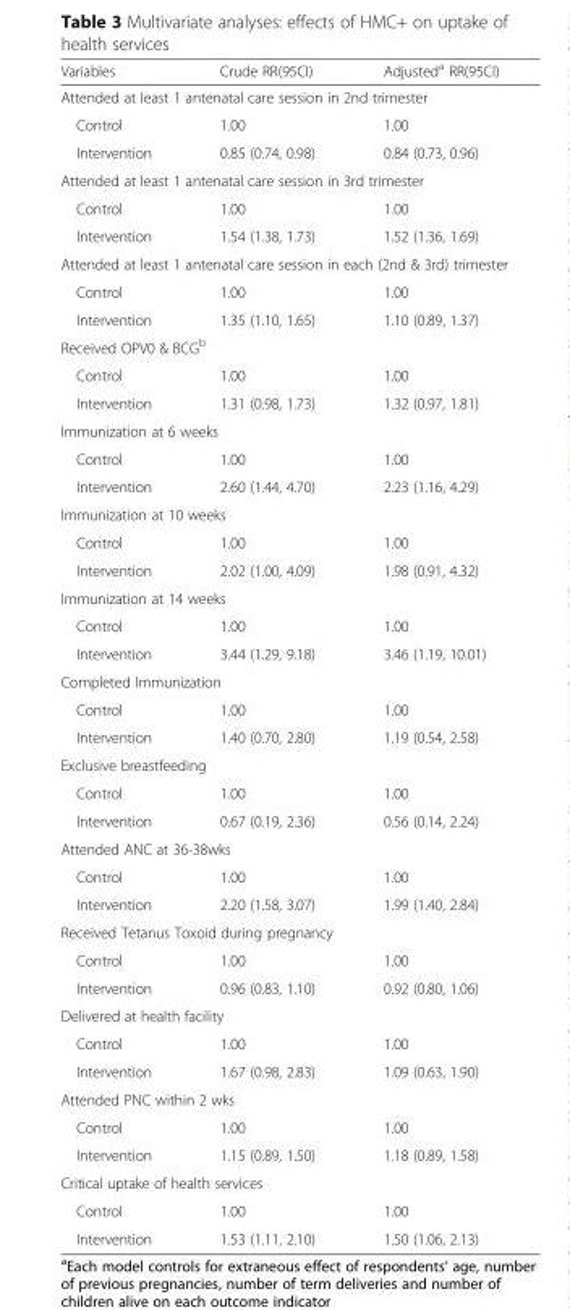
<table><thead><tr><td>Variables</td><td>Crude RR(95CI)</td><td>Adjusted<sup>a</sup> RR(95CI)</td></tr></thead><tbody><tr><td colspan="3">Attended at least 1 antenatal care session in 2nd trimester</td></tr><tr><td>Control</td><td>1.00</td><td>1.00</td></tr><tr><td>Intervention</td><td>0.85 (0.74, 0.98)</td><td>0.84 (0.73, 0.96)</td></tr><tr><td colspan="3">Attended at least 1 antenatal care session in 3rd trimester</td></tr><tr><td>Control</td><td>1.00</td><td>1.00</td></tr><tr><td>Intervention</td><td>1.54 (1.38, 1.73)</td><td>1.52 (1.36, 1.69)</td></tr><tr><td colspan="3">Attended at least 1 antenatal care session in each (2nd &amp; 3rd) trimester</td></tr><tr><td>Control</td><td>1.00</td><td>1.00</td></tr><tr><td>Intervention</td><td>1.35 (1.10, 1.65)</td><td>1.10 (0.89, 1.37)</td></tr><tr><td colspan="3">Received OPV0 &amp; BCG<sup>b</sup></td></tr><tr><td>Control</td><td>1.00</td><td>1.00</td></tr><tr><td>Intervention</td><td>1.31 (0.98, 1.73)</td><td>1.32 (0.97, 1.81)</td></tr><tr><td colspan="3">Immunization at 6 weeks</td></tr><tr><td>Control</td><td>1.00</td><td>1.00</td></tr><tr><td>Intervention</td><td>2.60 (1.44, 4.70)</td><td>2.23 (1.16, 4.29)</td></tr><tr><td colspan="3">Immunization at 10 weeks</td></tr><tr><td>Control</td><td>1.00</td><td>1.00</td></tr><tr><td>Intervention</td><td>2.02 (1.00, 4.09)</td><td>1.98 (0.91, 4.32)</td></tr><tr><td colspan="3">Immunization at 14 weeks</td></tr><tr><td>Control</td><td>1.00</td><td>1.00</td></tr><tr><td>Intervention</td><td>3.44 (1.29, 9.18)</td><td>3.46 (1.19, 10.01)</td></tr><tr><td colspan="3">Completed Immunization</td></tr><tr><td>Control</td><td>1.00</td><td>1.00</td></tr><tr><td>Intervention</td><td>1.40 (0.70, 2.80)</td><td>1.19 (0.54, 2.58)</td></tr><tr><td colspan="3">Exclusive breastfeeding</td></tr><tr><td>Control</td><td>1.00</td><td>1.00</td></tr><tr><td>Intervention</td><td>0.67 (0.19, 2.36)</td><td>0.56 (0.14, 2.24)</td></tr><tr><td colspan="3">Attended ANC at 36-38wks</td></tr><tr><td>Control</td><td>1.00</td><td>1.00</td></tr><tr><td>Intervention</td><td>2.20 (1.58, 3.07)</td><td>1.99 (1.40, 2.84)</td></tr><tr><td colspan="3">Received Tetanus Toxoid during pregnancy</td></tr><tr><td>Control</td><td>1.00</td><td>1.00</td></tr><tr><td>Intervention</td><td>0.96 (0.83, 1.10)</td><td>0.92 (0.80, 1.06)</td></tr><tr><td colspan="3">Delivered at health facility</td></tr><tr><td>Control</td><td>1.00</td><td>1.00</td></tr><tr><td>Intervention</td><td>1.67 (0.98, 2.83)</td><td>1.09 (0.63, 1.90)</td></tr><tr><td colspan="3">Attended PNC within 2 wks</td></tr><tr><td>Control</td><td>1.00</td><td>1.00</td></tr><tr><td>Intervention</td><td>1.15 (0.89, 1.50)</td><td>1.18 (0.89, 1.58)</td></tr><tr><td colspan="3">Critical uptake of health services</td></tr><tr><td>Control</td><td>1.00</td><td>1.00</td></tr><tr><td>Intervention</td><td>1.53 (1.11, 2.10)</td><td>1.50 (1.06, 2.13)</td></tr></tbody></table>